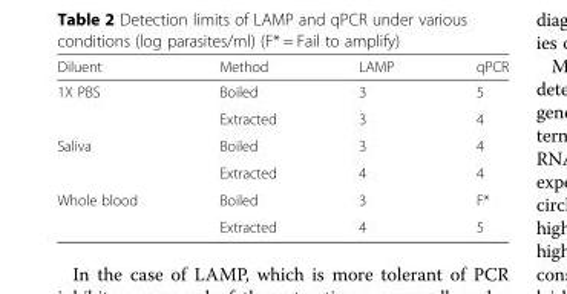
<table><thead><tr><td>Diluent</td><td>Method</td><td>LAMP</td><td>qPCR</td></tr></thead><tbody><tr><td rowspan="2">1X PBS</td><td>Boiled</td><td>3</td><td>5</td></tr><tr><td>Extracted</td><td>3</td><td>4</td></tr><tr><td rowspan="2">Saliva</td><td>Boiled</td><td>3</td><td>4</td></tr><tr><td>Extracted</td><td>4</td><td>4</td></tr><tr><td rowspan="2">Whole blood</td><td>Boiled</td><td>3</td><td>F*</td></tr><tr><td>Extracted</td><td>4</td><td>5</td></tr></tbody></table>